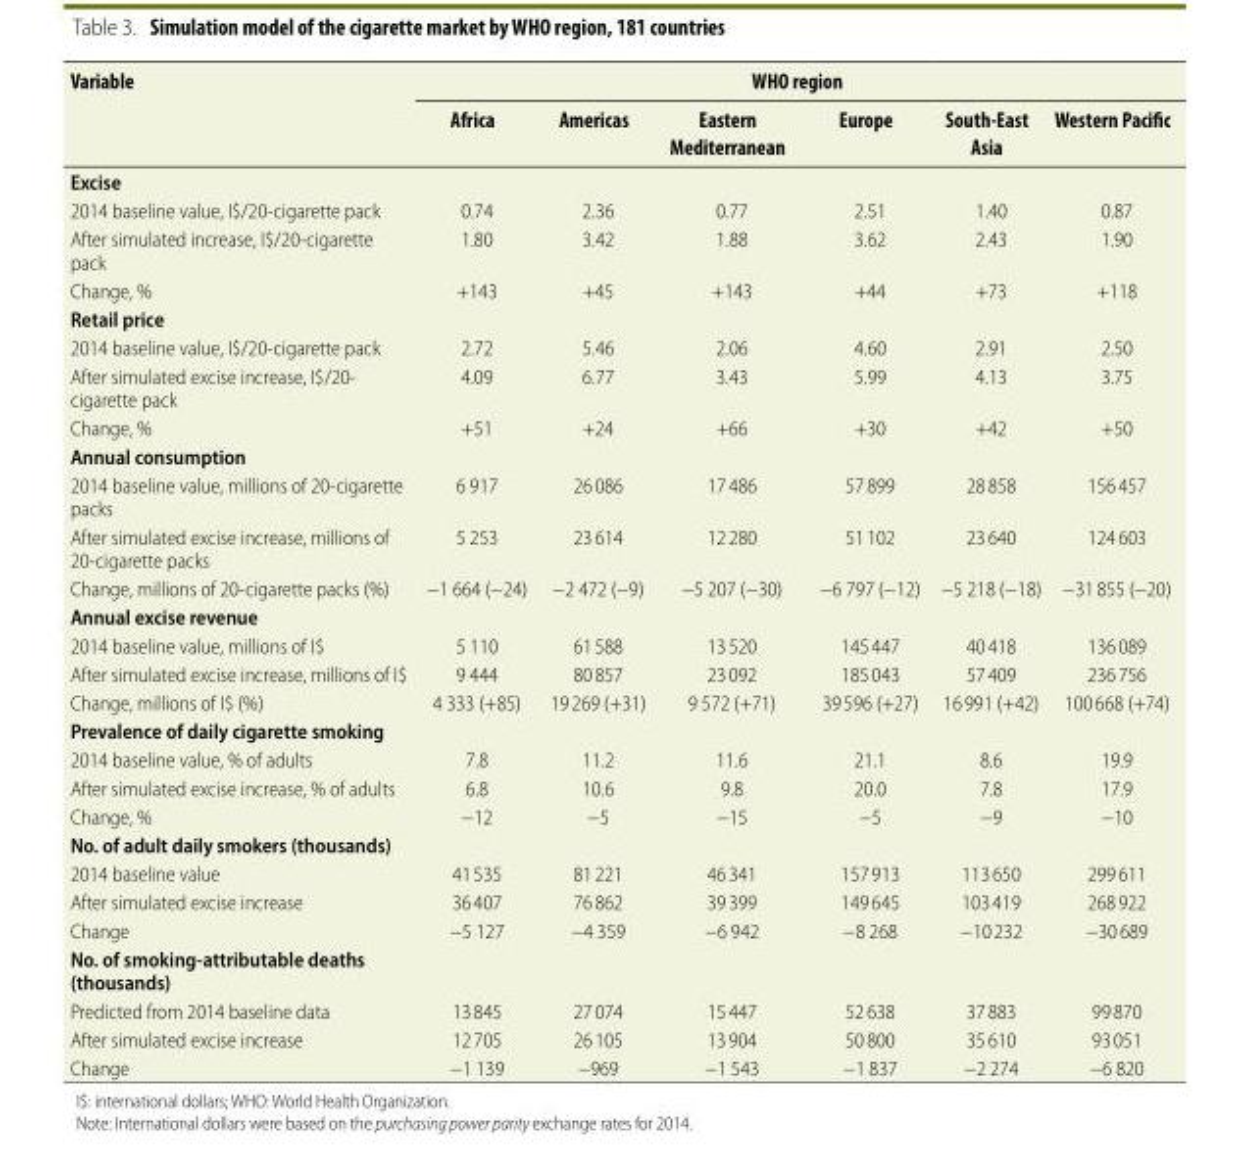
<table><thead><tr><td rowspan="2">Variable</td><td colspan="6">WHO region</td></tr><tr><td>Africa</td><td>Americas</td><td>Eastern Mediterranean</td><td>Europe</td><td>South-East Asia</td><td>Western Pacific</td></tr></thead><tbody><tr><td colspan="7">Excise</td></tr><tr><td>2014 baseline value, I$/20-cigarette pack</td><td>0.74</td><td>2.36</td><td>0.77</td><td>2.51</td><td>1.40</td><td>0.87</td></tr><tr><td>After simulated increase, I$/20-cigarette pack</td><td>1.80</td><td>3.42</td><td>1.88</td><td>3.62</td><td>2.43</td><td>1.90</td></tr><tr><td>Change, %</td><td>+143</td><td>+45</td><td>+143</td><td>+44</td><td>+73</td><td>+118</td></tr><tr><td colspan="7">Retail price</td></tr><tr><td>2014 baseline value, I$/20-cigarette pack</td><td>2.72</td><td>5.46</td><td>2.06</td><td>4.60</td><td>2.91</td><td>2.50</td></tr><tr><td>After simulated excise increase, I$/20- cigarette pack</td><td>4.09</td><td>6.77</td><td>3.43</td><td>5.99</td><td>4.13</td><td>3.75</td></tr><tr><td>Change, %</td><td>+51</td><td>+24</td><td>+66</td><td>+30</td><td>+42</td><td>+50</td></tr><tr><td colspan="7">Annual consumption</td></tr><tr><td>2014 baseline value, millions of 20-cigarette packs</td><td>6 917</td><td>26 086</td><td>17 486</td><td>57 899</td><td>28 858</td><td>156 457</td></tr><tr><td>After simulated excise increase, millions of 20-cigarette packs</td><td>5 253</td><td>23 614</td><td>12 280</td><td>51 102</td><td>23 640</td><td>124 603</td></tr><tr><td>Change, millions of 20-cigarette packs (%)</td><td>−1 664 (−24)</td><td>−2 472 (−9)</td><td>−5 207 (−30)</td><td>−6 797 (−12)</td><td>−5 218 (−18)</td><td>−31 855 (−20)</td></tr><tr><td colspan="7">Annual excise revenue</td></tr><tr><td>2014 baseline value, millions of I$</td><td>5 110</td><td>61 588</td><td>13 520</td><td>145 447</td><td>40 418</td><td>136 089</td></tr><tr><td>After simulated excise increase, millions of I$</td><td>9 444</td><td>80 857</td><td>23 092</td><td>185 043</td><td>57 409</td><td>236 756</td></tr><tr><td>Change, millions of I$ (%)</td><td>4 333 (+85)</td><td>19 269 (+31)</td><td>9 572 (+71)</td><td>39 596 (+27)</td><td>16 991 (+42)</td><td>100 668 (+74)</td></tr><tr><td colspan="7">Prevalence of daily cigarette smoking</td></tr><tr><td>2014 baseline value, % of adults</td><td>7.8</td><td>11.2</td><td>11.6</td><td>21.1</td><td>8.6</td><td>19.9</td></tr><tr><td>After simulated excise increase, % of adults</td><td>6.8</td><td>10.6</td><td>9.8</td><td>20.0</td><td>7.8</td><td>17.9</td></tr><tr><td>Change, %</td><td>−12</td><td>−5</td><td>−15</td><td>−5</td><td>−9</td><td>−10</td></tr><tr><td colspan="7">No. of adult daily smokers (thousands)</td></tr><tr><td>2014 baseline value</td><td>41 535</td><td>81 221</td><td>46 341</td><td>157 913</td><td>113 650</td><td>299 611</td></tr><tr><td>After simulated excise increase</td><td>36 407</td><td>76 862</td><td>39 399</td><td>149 645</td><td>103 419</td><td>268 922</td></tr><tr><td>Change</td><td>−5 127</td><td>−4 359</td><td>−6 942</td><td>−8 268</td><td>−10 232</td><td>−30 689</td></tr><tr><td colspan="7">No. of smoking-attributable deaths (thousands)</td></tr><tr><td>Predicted from 2014 baseline data</td><td>13 845</td><td>27 074</td><td>15 447</td><td>52 638</td><td>37 883</td><td>99 870</td></tr><tr><td>After simulated excise increase</td><td>12 705</td><td>26 105</td><td>13 904</td><td>50 800</td><td>35 610</td><td>93 051</td></tr><tr><td>Change</td><td>−1 139</td><td>−969</td><td>−1 543</td><td>−1 837</td><td>−2 274</td><td>−6 820</td></tr></tbody></table>